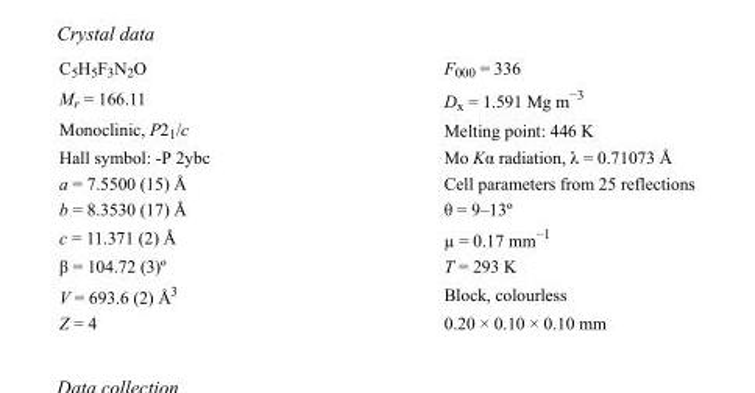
<table><tbody><tr><td>C<sub>5</sub>H<sub>5</sub>F<sub>3</sub>N<sub>2</sub>O</td><td>F000 = 336</td></tr><tr><td>M<sub>r</sub> = 166.11</td><td>D<sub>x</sub> = 1.591 Mg m<sup>−3</sup></td></tr><tr><td>Monoclinic, P2<sub>1</sub>/c</td><td>Melting point: 446 K</td></tr><tr><td>Hall symbol: -P 2ybc</td><td>Mo Kα radiation, λ = 0.71073 Å</td></tr><tr><td>a = 7.5500 (15) Å</td><td>Cell parameters from 25 reflections</td></tr><tr><td>b = 8.3530 (17) Å</td><td>θ = 9–13º</td></tr><tr><td>c = 11.371 (2) Å</td><td>µ = 0.17 mm<sup>−1</sup></td></tr><tr><td>β = 104.72 (3)º</td><td>T = 293 K</td></tr><tr><td>V = 693.6 (2) Å<sup>3</sup></td><td>Block, colourless</td></tr><tr><td>Z = 4</td><td>0.20 × 0.10 × 0.10 mm</td></tr></tbody></table>